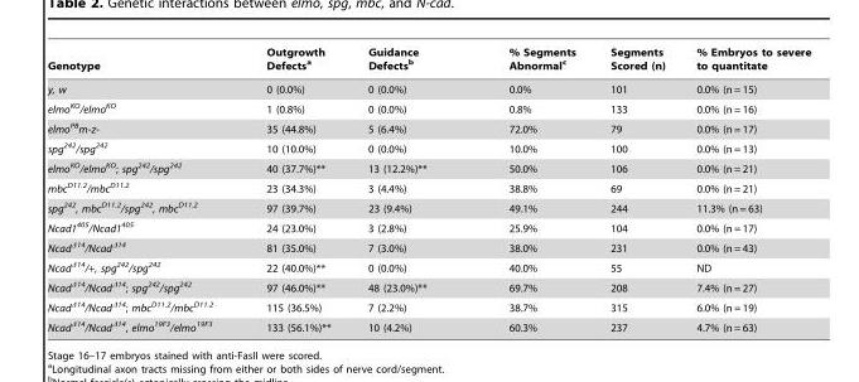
<table><thead><tr><td>Genotype</td><td>Outgrowth Defects<sup>a</sup></td><td>Guidance Defects<sup>b</sup></td><td>% Segments Abnormal<sup>c</sup></td><td>Segments Scored (n)</td><td>% Embryos to severe to quantitate</td></tr></thead><tbody><tr><td>y, w</td><td>0 (0.0%)</td><td>0 (0.0%)</td><td>0.0%</td><td>101</td><td>0.0% (n = 15)</td></tr><tr><td>elmo<sup>KO</sup>/elmo<sup>KO</sup></td><td>1 (0.8%)</td><td>0 (0.0%)</td><td>0.8%</td><td>133</td><td>0.0% (n = 16)</td></tr><tr><td>elmo<sup>PB</sup>m-z-</td><td>35 (44.8%)</td><td>5 (6.4%)</td><td>72.0%</td><td>79</td><td>0.0% (n = 17)</td></tr><tr><td>spg<sup>242</sup>/spg<sup>242</sup></td><td>10 (10.0%)</td><td>0 (0.0%)</td><td>10.0%</td><td>100</td><td>0.0% (n = 13)</td></tr><tr><td>elmo<sup>KO</sup>/elmo<sup>KO</sup>; spg<sup>242</sup>/spg<sup>242</sup></td><td>40 (37.7%)**</td><td>13 (12.2%)**</td><td>50.0%</td><td>106</td><td>0.0% (n = 21)</td></tr><tr><td>mbc<sup>D11.2</sup>/mbc<sup>D11.2</sup></td><td>23 (34.3%)</td><td>3 (4.4%)</td><td>38.8%</td><td>69</td><td>0.0% (n = 21)</td></tr><tr><td>spg<sup>242</sup>, mbc<sup>D11.2</sup>/spg<sup>242</sup>, mbc<sup>D11.2</sup></td><td>97 (39.7%)</td><td>23 (9.4%)</td><td>49.1%</td><td>244</td><td>11.3% (n = 63)</td></tr><tr><td>Ncad1<sup>405</sup>/Ncad1<sup>405</sup></td><td>24 (23.0%)</td><td>3 (2.8%)</td><td>25.9%</td><td>104</td><td>0.0% (n = 17)</td></tr><tr><td>Ncad<sup>Δ14</sup>/Ncad<sup>Δ14</sup></td><td>81 (35.0%)</td><td>7 (3.0%)</td><td>38.0%</td><td>231</td><td>0.0% (n = 43)</td></tr><tr><td>Ncad<sup>Δ14</sup>/+, spg<sup>242</sup>/spg<sup>242</sup></td><td>22 (40.0%)**</td><td>0 (0.0%)</td><td>40.0%</td><td>55</td><td>ND</td></tr><tr><td>Ncad<sup>Δ14</sup>/Ncad<sup>Δ14</sup>; spg<sup>242</sup>/spg<sup>242</sup></td><td>97 (46.0%)**</td><td>48 (23.0%)**</td><td>69.7%</td><td>208</td><td>7.4% (n = 27)</td></tr><tr><td>Ncad<sup>Δ14</sup>/Ncad<sup>Δ14</sup>; mbc<sup>D11.2</sup>/mbc<sup>D11.2</sup></td><td>115 (36.5%)</td><td>7 (2.2%)</td><td>38.7%</td><td>315</td><td>6.0% (n = 19)</td></tr><tr><td>Ncad<sup>Δ14</sup>/Ncad<sup>Δ14</sup>, elmo<sup>19F3</sup>/elmo<sup>19F3</sup></td><td>133 (56.1%)**</td><td>10 (4.2%)</td><td>60.3%</td><td>237</td><td>4.7% (n = 63)</td></tr></tbody></table>